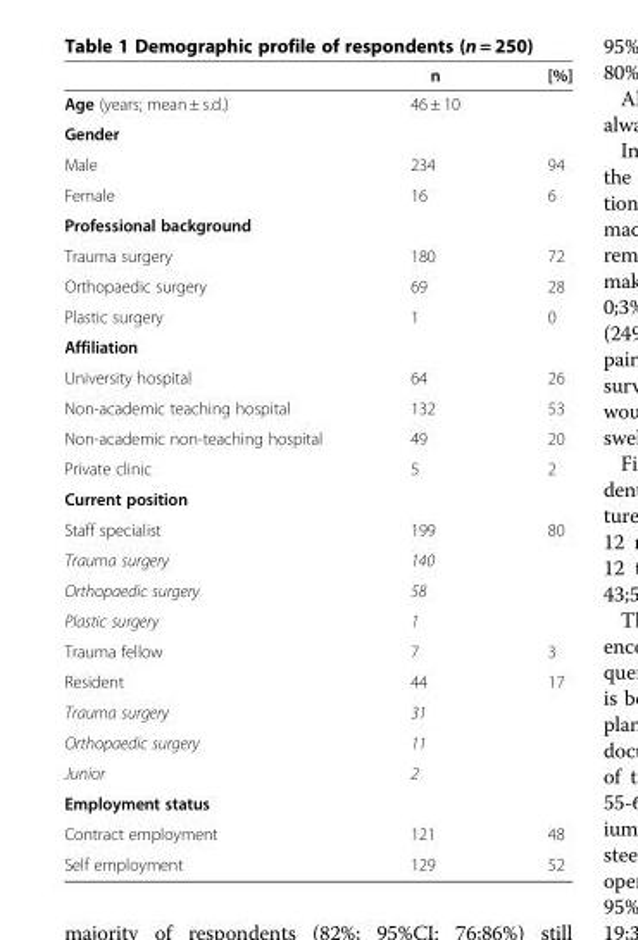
<table><thead><tr><td></td><td>n</td><td>[%]</td></tr></thead><tbody><tr><td>Age (years; mean ± s.d.)</td><td>46 ± 10</td><td></td></tr><tr><td colspan="3">Gender</td></tr><tr><td>Male</td><td>234</td><td>94</td></tr><tr><td>Female</td><td>16</td><td>6</td></tr><tr><td colspan="3">Professional background</td></tr><tr><td>Trauma surgery</td><td>180</td><td>72</td></tr><tr><td>Orthopaedic surgery</td><td>69</td><td>28</td></tr><tr><td>Plastic surgery</td><td>1</td><td>0</td></tr><tr><td colspan="3">Affiliation</td></tr><tr><td>University hospital</td><td>64</td><td>26</td></tr><tr><td>Non-academic teaching hospital</td><td>132</td><td>53</td></tr><tr><td>Non-academic non-teaching hospital</td><td>49</td><td>20</td></tr><tr><td>Private clinic</td><td>5</td><td>2</td></tr><tr><td colspan="3">Current position</td></tr><tr><td>Staff specialist</td><td>199</td><td>80</td></tr><tr><td>Trauma surgery</td><td>140</td><td></td></tr><tr><td>Orthopaedic surgery</td><td>58</td><td></td></tr><tr><td>Plastic surgery</td><td>1</td><td></td></tr><tr><td>Trauma fellow</td><td>7</td><td>3</td></tr><tr><td>Resident</td><td>44</td><td>17</td></tr><tr><td>Trauma surgery</td><td>31</td><td></td></tr><tr><td>Orthopaedic surgery</td><td>11</td><td></td></tr><tr><td>Junior</td><td>2</td><td></td></tr><tr><td colspan="3">Employment status</td></tr><tr><td>Contract employment</td><td>121</td><td>48</td></tr><tr><td>Self employment</td><td>129</td><td>52</td></tr></tbody></table>